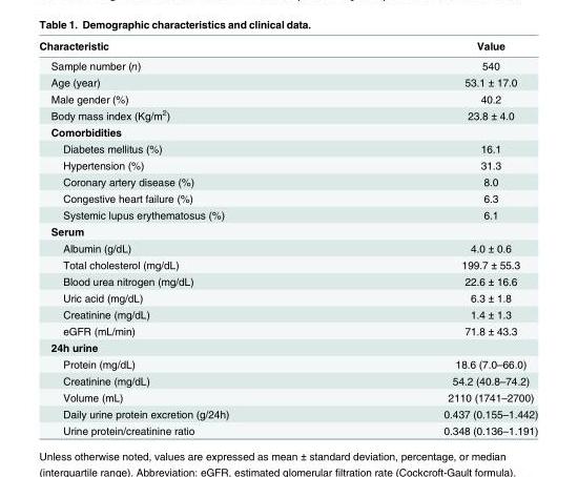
<table><thead><tr><td>Characteristic</td><td>Value</td></tr></thead><tbody><tr><td>Sample number (n)</td><td>540</td></tr><tr><td>Age (year)</td><td>53.1 ± 17.0</td></tr><tr><td>Male gender (%)</td><td>40.2</td></tr><tr><td>Body mass index (Kg/m<sup>2</sup>)</td><td>23.8 ± 4.0</td></tr><tr><td colspan="2">Comorbidities</td></tr><tr><td>Diabetes mellitus (%)</td><td>16.1</td></tr><tr><td>Hypertension (%)</td><td>31.3</td></tr><tr><td>Coronary artery disease (%)</td><td>8.0</td></tr><tr><td>Congestive heart failure (%)</td><td>6.3</td></tr><tr><td>Systemic lupus erythematosus (%)</td><td>6.1</td></tr><tr><td colspan="2">Serum</td></tr><tr><td>Albumin (g/dL)</td><td>4.0 ± 0.6</td></tr><tr><td>Total cholesterol (mg/dL)</td><td>199.7 ± 55.3</td></tr><tr><td>Blood urea nitrogen (mg/dL)</td><td>22.6 ± 16.6</td></tr><tr><td>Uric acid (mg/dL)</td><td>6.3 ± 1.8</td></tr><tr><td>Creatinine (mg/dL)</td><td>1.4 ± 1.3</td></tr><tr><td>eGFR (mL/min)</td><td>71.8 ± 43.3</td></tr><tr><td colspan="2">24h urine</td></tr><tr><td>Protein (mg/dL)</td><td>18.6 (7.0–66.0)</td></tr><tr><td>Creatinine (mg/dL)</td><td>54.2 (40.8–74.2)</td></tr><tr><td>Volume (mL)</td><td>2110 (1741–2700)</td></tr><tr><td>Daily urine protein excretion (g/24h)</td><td>0.437 (0.155–1.442)</td></tr><tr><td>Urine protein/creatinine ratio</td><td>0.348 (0.136–1.191)</td></tr></tbody></table>